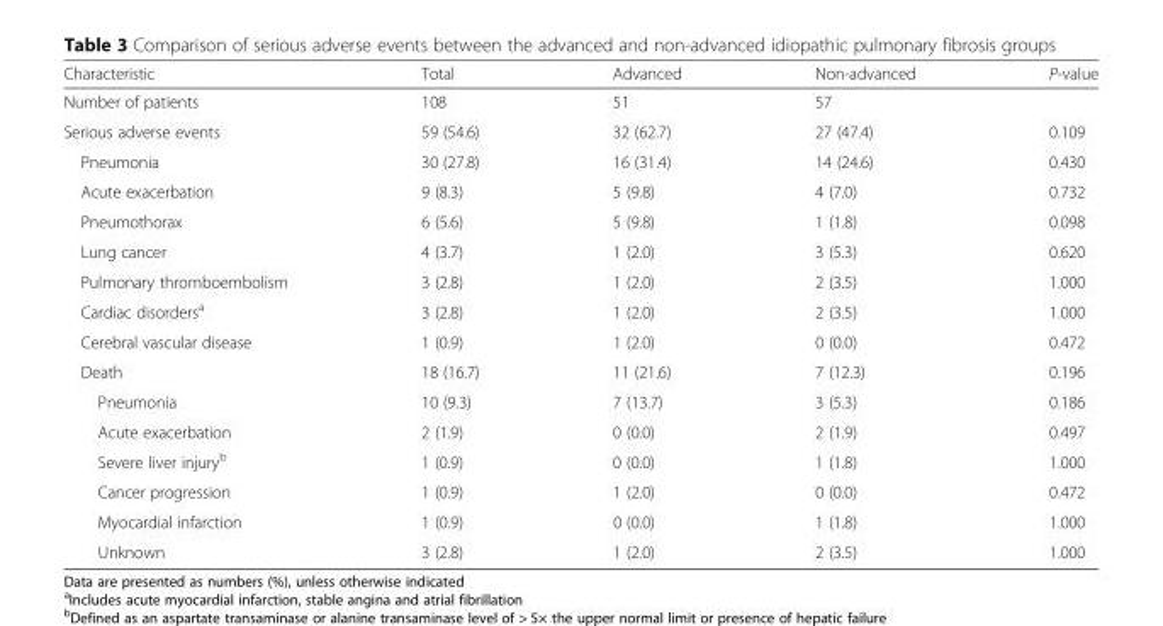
<table><thead><tr><td>Characteristic</td><td>Total</td><td>Advanced</td><td>Non-advanced</td><td>P-value</td></tr></thead><tbody><tr><td>Number of patients</td><td>108</td><td>51</td><td>57</td><td></td></tr><tr><td>Serious adverse events</td><td>59 (54.6)</td><td>32 (62.7)</td><td>27 (47.4)</td><td>0.109</td></tr><tr><td>Pneumonia</td><td>30 (27.8)</td><td>16 (31.4)</td><td>14 (24.6)</td><td>0.430</td></tr><tr><td>Acute exacerbation</td><td>9 (8.3)</td><td>5 (9.8)</td><td>4 (7.0)</td><td>0.732</td></tr><tr><td>Pneumothorax</td><td>6 (5.6)</td><td>5 (9.8)</td><td>1 (1.8)</td><td>0.098</td></tr><tr><td>Lung cancer</td><td>4 (3.7)</td><td>1 (2.0)</td><td>3 (5.3)</td><td>0.620</td></tr><tr><td>Pulmonary thromboembolism</td><td>3 (2.8)</td><td>1 (2.0)</td><td>2 (3.5)</td><td>1.000</td></tr><tr><td>Cardiac disorders<sup>a</sup></td><td>3 (2.8)</td><td>1 (2.0)</td><td>2 (3.5)</td><td>1.000</td></tr><tr><td>Cerebral vascular disease</td><td>1 (0.9)</td><td>1 (2.0)</td><td>0 (0.0)</td><td>0.472</td></tr><tr><td>Death</td><td>18 (16.7)</td><td>11 (21.6)</td><td>7 (12.3)</td><td>0.196</td></tr><tr><td>Pneumonia</td><td>10 (9.3)</td><td>7 (13.7)</td><td>3 (5.3)</td><td>0.186</td></tr><tr><td>Acute exacerbation</td><td>2 (1.9)</td><td>0 (0.0)</td><td>2 (1.9)</td><td>0.497</td></tr><tr><td>Severe liver injury<sup>b</sup></td><td>1 (0.9)</td><td>0 (0.0)</td><td>1 (1.8)</td><td>1.000</td></tr><tr><td>Cancer progression</td><td>1 (0.9)</td><td>1 (2.0)</td><td>0 (0.0)</td><td>0.472</td></tr><tr><td>Myocardial infarction</td><td>1 (0.9)</td><td>0 (0.0)</td><td>1 (1.8)</td><td>1.000</td></tr><tr><td>Unknown</td><td>3 (2.8)</td><td>1 (2.0)</td><td>2 (3.5)</td><td>1.000</td></tr></tbody></table>